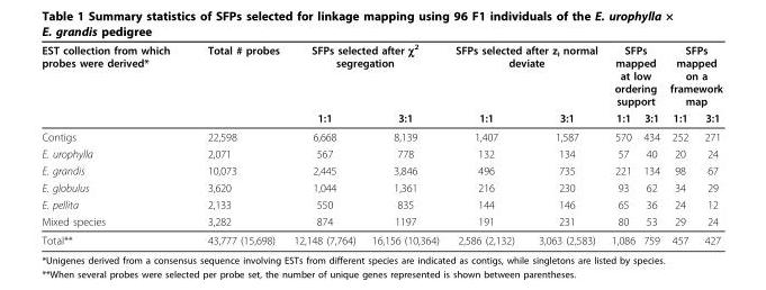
<table><thead><tr><td rowspan="2">EST collection from which probes were derived*</td><td rowspan="2">Total # probes</td><td colspan="2">SFPs selected after χ<sup>2</sup> segregation</td><td colspan="2">SFPs selected after z<sub>i</sub> normal deviate</td><td colspan="2">SFPs mapped at low ordering support</td><td colspan="2">SFPs mapped on a framework map</td></tr><tr><td>1:1</td><td>3:1</td><td>1:1</td><td>3:1</td><td>1:1</td><td>3:1</td><td>1:1</td><td>3:1</td></tr></thead><tbody><tr><td>Contigs</td><td>22,598</td><td>6,668</td><td>8,139</td><td>1,407</td><td>1,587</td><td>570</td><td>434</td><td>252</td><td>271</td></tr><tr><td>E. urophylla</td><td>2,071</td><td>567</td><td>778</td><td>132</td><td>134</td><td>57</td><td>40</td><td>20</td><td>24</td></tr><tr><td>E. grandis</td><td>10,073</td><td>2,445</td><td>3,846</td><td>496</td><td>735</td><td>221</td><td>134</td><td>98</td><td>67</td></tr><tr><td>E. globulus</td><td>3,620</td><td>1,044</td><td>1,361</td><td>216</td><td>230</td><td>93</td><td>62</td><td>34</td><td>29</td></tr><tr><td>E. pellita</td><td>2,133</td><td>550</td><td>835</td><td>144</td><td>146</td><td>65</td><td>36</td><td>24</td><td>12</td></tr><tr><td>Mixed species</td><td>3,282</td><td>874</td><td>1197</td><td>191</td><td>231</td><td>80</td><td>53</td><td>29</td><td>24</td></tr><tr><td>Total**</td><td>43,777 (15,698)</td><td>12,148 (7,764)</td><td>16,156 (10,364)</td><td>2,586 (2,132)</td><td>3,063 (2,583)</td><td>1,086</td><td>759</td><td>457</td><td>427</td></tr></tbody></table>